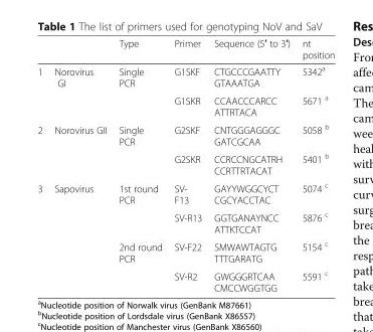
<table><thead><tr><td></td><td></td><td>Type</td><td>Primer</td><td>Sequence (5′ to 3′)</td><td>nt position</td></tr></thead><tbody><tr><td rowspan="2">1</td><td rowspan="2">Norovirus GI</td><td rowspan="2">Single PCR</td><td>G1SKF</td><td>CTGCCCGAATTY GTAAATGA</td><td>5342<sup>a</sup></td></tr><tr><td>G1SKR</td><td>CCAACCCARCC ATTRTACA</td><td>5671 <sup>a</sup></td></tr><tr><td rowspan="2">2</td><td rowspan="2">Norovirus GII</td><td rowspan="2">Single PCR</td><td>G2SKF</td><td>CNTGGGAGGGC GATCGCAA</td><td>5058 <sup>b</sup></td></tr><tr><td>G2SKR</td><td>CCRCCNGCATRH CCRTTRTACAT</td><td>5401 <sup>b</sup></td></tr><tr><td rowspan="4">3</td><td rowspan="4">Sapovirus</td><td rowspan="2">1st round PCR</td><td>SV- F13</td><td>GAYYWGGCYCT CGCYACCTAC</td><td>5074 <sup>c</sup></td></tr><tr><td>SV-R13</td><td>GGTGANAYNCC ATTKTCCAT</td><td>5876 <sup>c</sup></td></tr><tr><td rowspan="2">2nd round PCR</td><td>SV-F22</td><td>SMWAWTAGTG TTTGARATG</td><td>5154 <sup>c</sup></td></tr><tr><td>SV-R2</td><td>GWGGGRTCAA CMCCWGGTGG</td><td>5591 <sup>c</sup></td></tr></tbody></table>